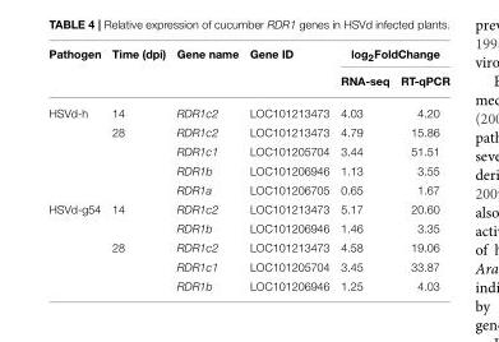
<table><thead><tr><td rowspan="2">Pathogen</td><td rowspan="2">Time (dpi)</td><td rowspan="2">Gene name</td><td rowspan="2">Gene ID</td><td colspan="2">log<sub>2</sub>FoldChange</td></tr><tr><td>RNA-seq</td><td>RT-qPCR</td></tr></thead><tbody><tr><td rowspan="5">HSVd-h</td><td>14</td><td>RDR1c2</td><td>LOC101213473</td><td>4.03</td><td>4.20</td></tr><tr><td>28</td><td>RDR1c2</td><td>LOC101213473</td><td>4.79</td><td>15.86</td></tr><tr><td></td><td>RDR1c1</td><td>LOC101205704</td><td>3.44</td><td>51.51</td></tr><tr><td></td><td>RDR1b</td><td>LOC101206946</td><td>1.13</td><td>3.55</td></tr><tr><td></td><td>RDR1a</td><td>LOC101206705</td><td>0.65</td><td>1.67</td></tr><tr><td rowspan="5">HSVd-g54</td><td>14</td><td>RDR1c2</td><td>LOC101213473</td><td>5.17</td><td>20.60</td></tr><tr><td></td><td>RDR1b</td><td>LOC101206946</td><td>1.46</td><td>3.35</td></tr><tr><td>28</td><td>RDR1c2</td><td>LOC101213473</td><td>4.58</td><td>19.06</td></tr><tr><td></td><td>RDR1c1</td><td>LOC101205704</td><td>3.45</td><td>33.87</td></tr><tr><td></td><td>RDR1b</td><td>LOC101206946</td><td>1.25</td><td>4.03</td></tr></tbody></table>